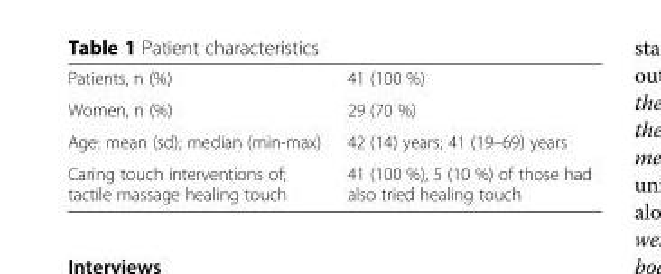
<table><tbody><tr><td>Patients, n (%)</td><td>41 (100 %)</td></tr><tr><td>Women, n (%)</td><td>29 (70 %)</td></tr><tr><td>Age: mean (sd); median (min-max)</td><td>42 (14) years; 41 (19–69) years</td></tr><tr><td>Caring touch interventions of; tactile massage healing touch</td><td>41 (100 %), 5 (10 %) of those had also tried healing touch</td></tr></tbody></table>